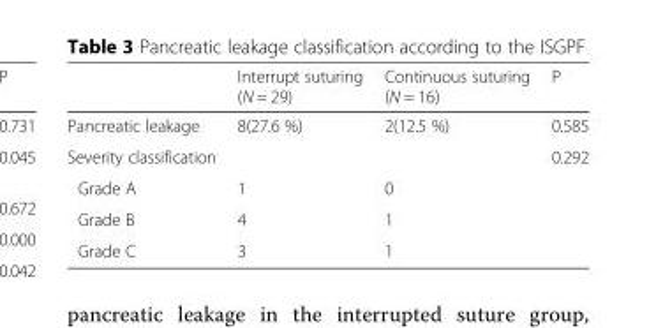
<table><thead><tr><td></td><td>Interrupt suturing (N = 29)</td><td>Continuous suturing (N = 16)</td><td>P</td></tr></thead><tbody><tr><td>Pancreatic leakage</td><td>8(27.6 %)</td><td>2(12.5 %)</td><td>0.585</td></tr><tr><td>Severity classification</td><td></td><td></td><td>0.292</td></tr><tr><td>Grade A</td><td>1</td><td>0</td><td></td></tr><tr><td>Grade B</td><td>4</td><td>1</td><td></td></tr><tr><td>Grade C</td><td>3</td><td>1</td><td></td></tr></tbody></table>